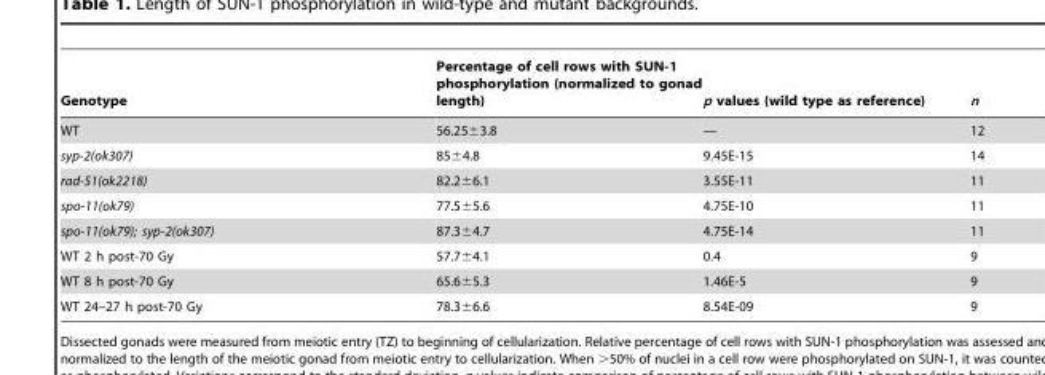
<table><thead><tr><td>Genotype</td><td>Percentage of cell rows with SUN-1 phosphorylation (normalized to gonad length)</td><td>p values (wild type as reference)</td><td>n</td></tr></thead><tbody><tr><td>WT</td><td>56.25±3.8</td><td>—</td><td>12</td></tr><tr><td>syp-2(ok307)</td><td>85±4.8</td><td>9.45E-15</td><td>14</td></tr><tr><td>rad-51(ok2218)</td><td>82.2±6.1</td><td>3.55E-11</td><td>11</td></tr><tr><td>spo-11(ok79)</td><td>77.5±5.6</td><td>4.75E-10</td><td>11</td></tr><tr><td>spo-11(ok79); syp-2(ok307)</td><td>87.3±4.7</td><td>4.75E-14</td><td>11</td></tr><tr><td>WT 2 h post-70 Gy</td><td>57.7±4.1</td><td>0.4</td><td>9</td></tr><tr><td>WT 8 h post-70 Gy</td><td>65.6±5.3</td><td>1.46E-5</td><td>9</td></tr><tr><td>WT 24–27 h post-70 Gy</td><td>78.3±6.6</td><td>8.54E-09</td><td>9</td></tr></tbody></table>